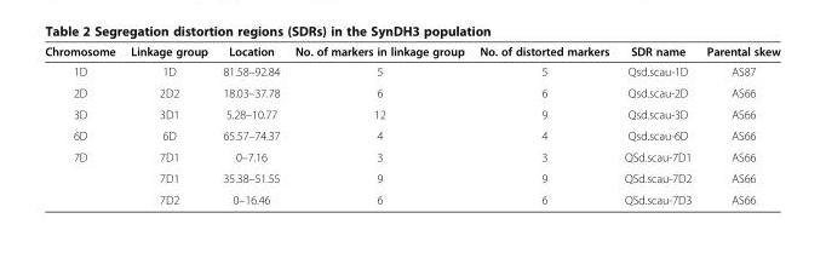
<table><thead><tr><td>Chromosome</td><td>Linkage group</td><td>Location</td><td>No. of markers in linkage group</td><td>No. of distorted markers</td><td>SDR name</td><td>Parental skew</td></tr></thead><tbody><tr><td>1D</td><td>1D</td><td>81.58–92.84</td><td>5</td><td>5</td><td>Qsd.scau-1D</td><td>AS87</td></tr><tr><td>2D</td><td>2D2</td><td>18.03–37.78</td><td>6</td><td>6</td><td>Qsd.scau-2D</td><td>AS66</td></tr><tr><td>3D</td><td>3D1</td><td>5.28–10.77</td><td>12</td><td>9</td><td>Qsd.scau-3D</td><td>AS66</td></tr><tr><td>6D</td><td>6D</td><td>65.57–74.37</td><td>4</td><td>4</td><td>Qsd.scau-6D</td><td>AS66</td></tr><tr><td rowspan="3">7D</td><td>7D1</td><td>0–7.16</td><td>3</td><td>3</td><td>QSd.scau-7D1</td><td>AS66</td></tr><tr><td>7D1</td><td>35.38–51.55</td><td>9</td><td>9</td><td>QSd.scau-7D2</td><td>AS66</td></tr><tr><td>7D2</td><td>0–16.46</td><td>6</td><td>6</td><td>QSd.scau-7D3</td><td>AS66</td></tr></tbody></table>